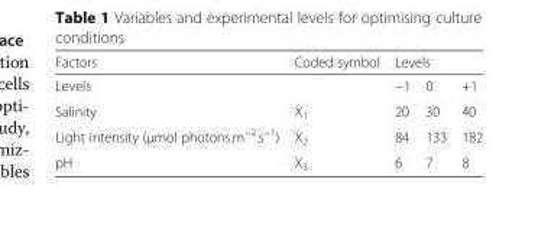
<table><thead><tr><td rowspan="2">Factors Levels</td><td rowspan="2">Coded symbol</td><td colspan="3">Levels</td></tr><tr><td>−1</td><td>0</td><td>+1</td></tr></thead><tbody><tr><td>Salinity</td><td>X<sub>1</sub></td><td>20</td><td>30</td><td>40</td></tr><tr><td>Light intensity (μmol photons.m<sup>−2</sup>.s<sup>−1</sup>)</td><td>X<sub>2</sub></td><td>84</td><td>133</td><td>182</td></tr><tr><td>pH</td><td>X<sub>3</sub></td><td>6</td><td>7</td><td>8</td></tr></tbody></table>